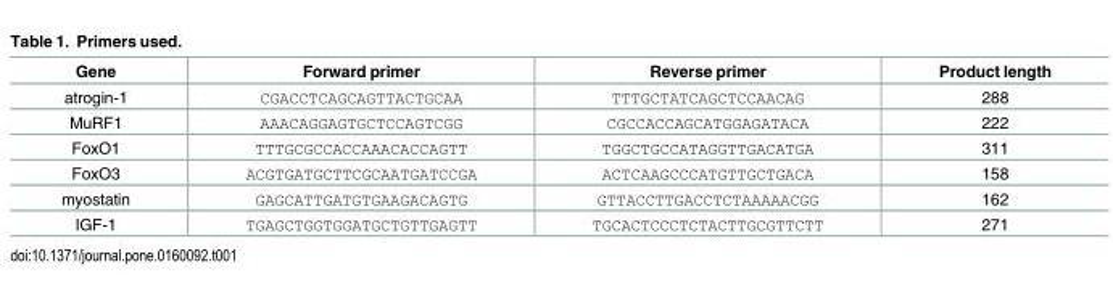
<table><thead><tr><td>Gene</td><td>Forward primer</td><td>Reverse primer</td><td>Product length</td></tr></thead><tbody><tr><td>atrogin-1</td><td>CGACCTCAGCAGTTACTGCAA</td><td>TTTGCTATCAGCTCCAACAG</td><td>288</td></tr><tr><td>MuRF1</td><td>AAACAGGAGTGCTCCAGTCGG</td><td>CGCCACCAGCATGGAGATACA</td><td>222</td></tr><tr><td>FoxO1</td><td>TTTGCGCCACCAAACACCAGTT</td><td>TGGCTGCCATAGGTTGACATGA</td><td>311</td></tr><tr><td>FoxO3</td><td>ACGTGATGCTTCGCAATGATCCGA</td><td>ACTCAAGCCCATGTTGCTGACA</td><td>158</td></tr><tr><td>myostatin</td><td>GAGCATTGATGTGAAGACAGTG</td><td>GTTACCTTGACCTCTAAAAACGG</td><td>162</td></tr><tr><td>IGF-1</td><td>TGAGCTGGTGGATGCTGTTGAGTT</td><td>TGCACTCCCTCTACTTGCGTTCTT</td><td>271</td></tr></tbody></table>